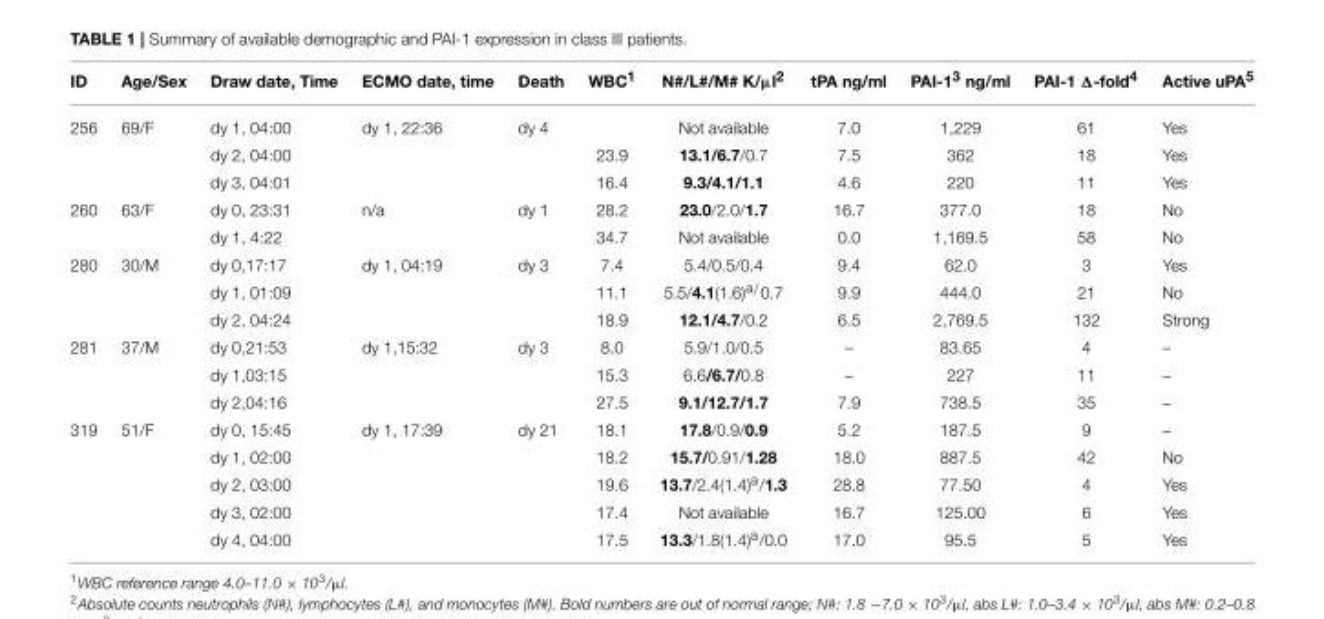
<table><thead><tr><td>ID</td><td>Age/Sex</td><td>Draw date, Time</td><td>ECMO date, time</td><td>Death</td><td>WBC<sup>1</sup></td><td>N#/L#/M# K/µl<sup>2</sup></td><td>tPA ng/ml</td><td>PAI-1<sup>3</sup> ng/ml</td><td>PAI-1 Δ-fold<sup>4</sup></td><td>Active uPA<sup>5</sup></td></tr></thead><tbody><tr><td rowspan="3">256</td><td>69/F</td><td>dy 1, 04:00</td><td>dy 1, 22:36</td><td>dy 4</td><td></td><td>Not available</td><td>7.0</td><td>1,229</td><td>61</td><td>Yes</td></tr><tr><td></td><td>dy 2, 04:00</td><td></td><td></td><td>23.9</td><td>13.1/6.7/0.7</td><td>7.5</td><td>362</td><td>18</td><td>Yes</td></tr><tr><td></td><td>dy 3, 04:01</td><td></td><td></td><td>16.4</td><td>9.3/4.1/1.1</td><td>4.6</td><td>220</td><td>11</td><td>Yes</td></tr><tr><td rowspan="2">260</td><td>63/F</td><td>dy 0, 23:31</td><td>n/a</td><td>dy 1</td><td>28.2</td><td>23.0/2.0/1.7</td><td>16.7</td><td>377.0</td><td>18</td><td>No</td></tr><tr><td></td><td>dy 1, 4:22</td><td></td><td></td><td>34.7</td><td>Not available</td><td>0.0</td><td>1,169.5</td><td>58</td><td>No</td></tr><tr><td rowspan="3">280</td><td>30/M</td><td>dy 0,17:17</td><td>dy 1, 04:19</td><td>dy 3</td><td>7.4</td><td>5.4/0.5/0.4</td><td>9.4</td><td>62.0</td><td>3</td><td>Yes</td></tr><tr><td></td><td>dy 1, 01:09</td><td></td><td></td><td>11.1</td><td>5.5/4.1(1.6)<sup>a/</sup>0.7</td><td>9.9</td><td>444.0</td><td>21</td><td>No</td></tr><tr><td></td><td>dy 2, 04:24</td><td></td><td></td><td>18.9</td><td>12.1/4.7/0.2</td><td>6.5</td><td>2,769.5</td><td>132</td><td>Strong</td></tr><tr><td rowspan="3">281</td><td>37/M</td><td>dy 0,21:53</td><td>dy 1,15:32</td><td>dy 3</td><td>8.0</td><td>5.9/1.0/0.5</td><td>–</td><td>83.65</td><td>4</td><td>–</td></tr><tr><td></td><td>dy 1,03:15</td><td></td><td></td><td>15.3</td><td>6.6/6.7/0.8</td><td>–</td><td>227</td><td>11</td><td>–</td></tr><tr><td></td><td>dy 2,04:16</td><td></td><td></td><td>27.5</td><td>9.1/12.7/1.7</td><td>7.9</td><td>738.5</td><td>35</td><td>–</td></tr><tr><td rowspan="5">319</td><td>51/F</td><td>dy 0, 15:45</td><td>dy 1, 17:39</td><td>dy 21</td><td>18.1</td><td>17.8/0.9/0.9</td><td>5.2</td><td>187.5</td><td>9</td><td>–</td></tr><tr><td></td><td>dy 1, 02:00</td><td></td><td></td><td>18.2</td><td>15.7/0.91/1.28</td><td>18.0</td><td>887.5</td><td>42</td><td>No</td></tr><tr><td></td><td>dy 2, 03:00</td><td></td><td></td><td>19.6</td><td>13.7/2.4(1.4)<sup>a/</sup>1.3</td><td>28.8</td><td>77.50</td><td>4</td><td>Yes</td></tr><tr><td></td><td>dy 3, 02:00</td><td></td><td></td><td>17.4</td><td>Not available</td><td>16.7</td><td>125.00</td><td>6</td><td>Yes</td></tr><tr><td></td><td>dy 4, 04:00</td><td></td><td></td><td>17.5</td><td>13.3/1.8(1.4)<sup>a</sup>/0.0</td><td>17.0</td><td>95.5</td><td>5</td><td>Yes</td></tr></tbody></table>